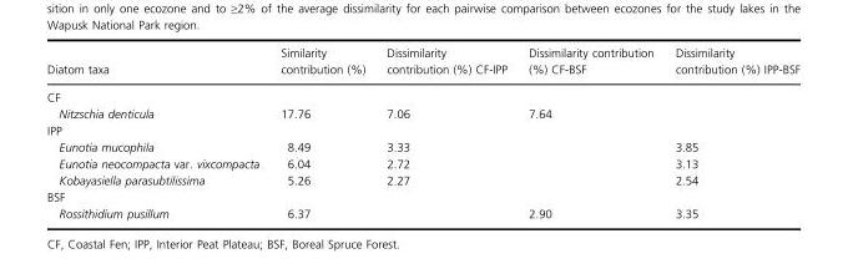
<table><thead><tr><td>Diatom taxa</td><td>Similarity contribution (%)</td><td>Dissimilarity contribution (%) CF-IPP</td><td>Dissimilarity contribution (%) CF-BSF</td><td>Dissimilarity contribution (%) IPP-BSF</td></tr></thead><tbody><tr><td colspan="5">CF</td></tr><tr><td>Nitzschia denticula</td><td>17.76</td><td>7.06</td><td>7.64</td><td></td></tr><tr><td colspan="5">IPP</td></tr><tr><td>Eunotia mucophila</td><td>8.49</td><td>3.33</td><td></td><td>3.85</td></tr><tr><td>Eunotia neocompacta var. vixcompacta</td><td>6.04</td><td>2.72</td><td></td><td>3.13</td></tr><tr><td>Kobayasiella parasubtilissima</td><td>5.26</td><td>2.27</td><td></td><td>2.54</td></tr><tr><td colspan="5">BSF</td></tr><tr><td>Rossithidium pusillum</td><td>6.37</td><td></td><td>2.90</td><td>3.35</td></tr></tbody></table>